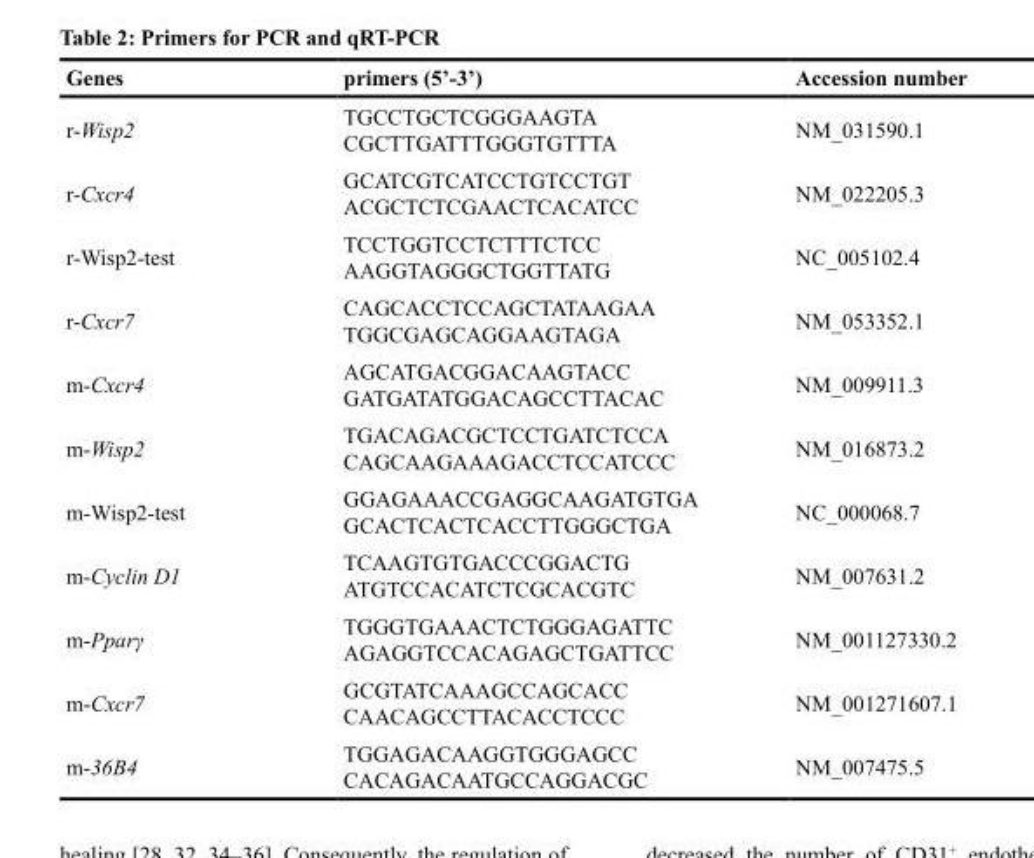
<table><thead><tr><td>Genes</td><td>primers (5’-3’)</td><td>Accession number</td></tr></thead><tbody><tr><td>r-Wisp2</td><td>TGCCTGCTCGGGAAGTA CGCTTGATTTGGGTGTTTA</td><td>NM_031590.1</td></tr><tr><td>r-Cxcr4</td><td>GCATCGTCATCCTGTCCTGT ACGCTCTCGAACTCACATCC</td><td>NM_022205.3</td></tr><tr><td>r-Wisp2-test</td><td>TCCTGGTCCTCTTTCTCC AAGGTAGGGCTGGTTATG</td><td>NC_005102.4</td></tr><tr><td>r-Cxcr7</td><td>CAGCACCTCCAGCTATAAGAA TGGCGAGCAGGAAGTAGA</td><td>NM_053352.1</td></tr><tr><td>m-Cxcr4</td><td>AGCATGACGGACAAGTACC GATGATATGGACAGCCTTACAC</td><td>NM_009911.3</td></tr><tr><td>m-Wisp2</td><td>TGACAGACGCTCCTGATCTCCA CAGCAAGAAAGACCTCCATCCC</td><td>NM_016873.2</td></tr><tr><td>m-Wisp2-test</td><td>GGAGAAACCGAGGCAAGATGTGA GCACTCACTCACCTTGGGCTGA</td><td>NC_000068.7</td></tr><tr><td>m-Cyclin D1</td><td>TCAAGTGTGACCCGGACTG ATGTCCACATCTCGCACGTC</td><td>NM_007631.2</td></tr><tr><td>m-Pparγ</td><td>TGGGTGAAACTCTGGGAGATTC AGAGGTCCACAGAGCTGATTCC</td><td>NM_001127330.2</td></tr><tr><td>m-Cxcr7</td><td>GCGTATCAAAGCCAGCACC CAACAGCCTTACACCTCCC</td><td>NM_001271607.1</td></tr><tr><td>m-36B4</td><td>TGGAGACAAGGTGGGAGCC CACAGACAATGCCAGGACGC</td><td>NM_007475.5</td></tr></tbody></table>